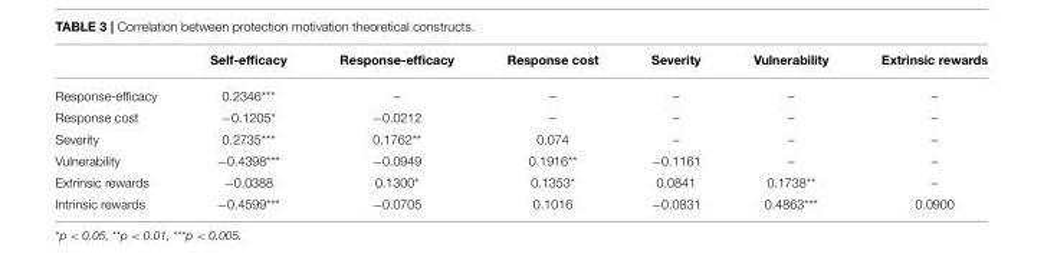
<table><thead><tr><td></td><td>Self-efficacy</td><td>Response-efficacy</td><td>Response cost</td><td>Severity</td><td>Vulnerability</td><td>Extrinsic rewards</td></tr></thead><tbody><tr><td>Response-efficacy</td><td>0.2346***</td><td>–</td><td>–</td><td>–</td><td>–</td><td>–</td></tr><tr><td>Response cost</td><td>−0.1205*</td><td>−0.0212</td><td>–</td><td>–</td><td>–</td><td>–</td></tr><tr><td>Severity</td><td>0.2735***</td><td>0.1762**</td><td>0.074</td><td>–</td><td>–</td><td>–</td></tr><tr><td>Vulnerability</td><td>−0.4398***</td><td>−0.0949</td><td>0.1916**</td><td>−0.1161</td><td>–</td><td>–</td></tr><tr><td>Extrinsic rewards</td><td>−0.0388</td><td>0.1300*</td><td>0.1353*</td><td>0.0841</td><td>0.1738**</td><td>–</td></tr><tr><td>Intrinsic rewards</td><td>−0.4599***</td><td>−0.0705</td><td>0.1016</td><td>−0.0831</td><td>0.4863***</td><td>0.0900</td></tr></tbody></table>